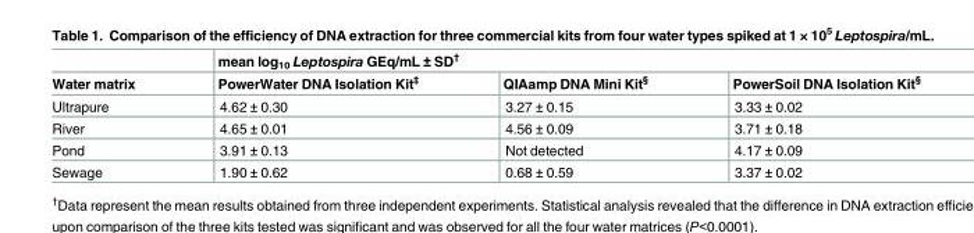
<table><thead><tr><td rowspan="2">Water matrix</td><td colspan="3">mean log<sub>10</sub> Leptospira GEq/mL ± SD<sup>†</sup></td></tr><tr><td>PowerWater DNA Isolation Kit<sup>‡</sup></td><td>QIAamp DNA Mini Kit<sup>§</sup></td><td>PowerSoil DNA Isolation Kit<sup>§</sup></td></tr></thead><tbody><tr><td>Ultrapure</td><td>4.62 ± 0.30</td><td>3.27 ± 0.15</td><td>3.33 ± 0.02</td></tr><tr><td>River</td><td>4.65 ± 0.01</td><td>4.56 ± 0.09</td><td>3.71 ± 0.18</td></tr><tr><td>Pond</td><td>3.91 ± 0.13</td><td>Not detected</td><td>4.17 ± 0.09</td></tr><tr><td>Sewage</td><td>1.90 ± 0.62</td><td>0.68 ± 0.59</td><td>3.37 ± 0.02</td></tr></tbody></table>